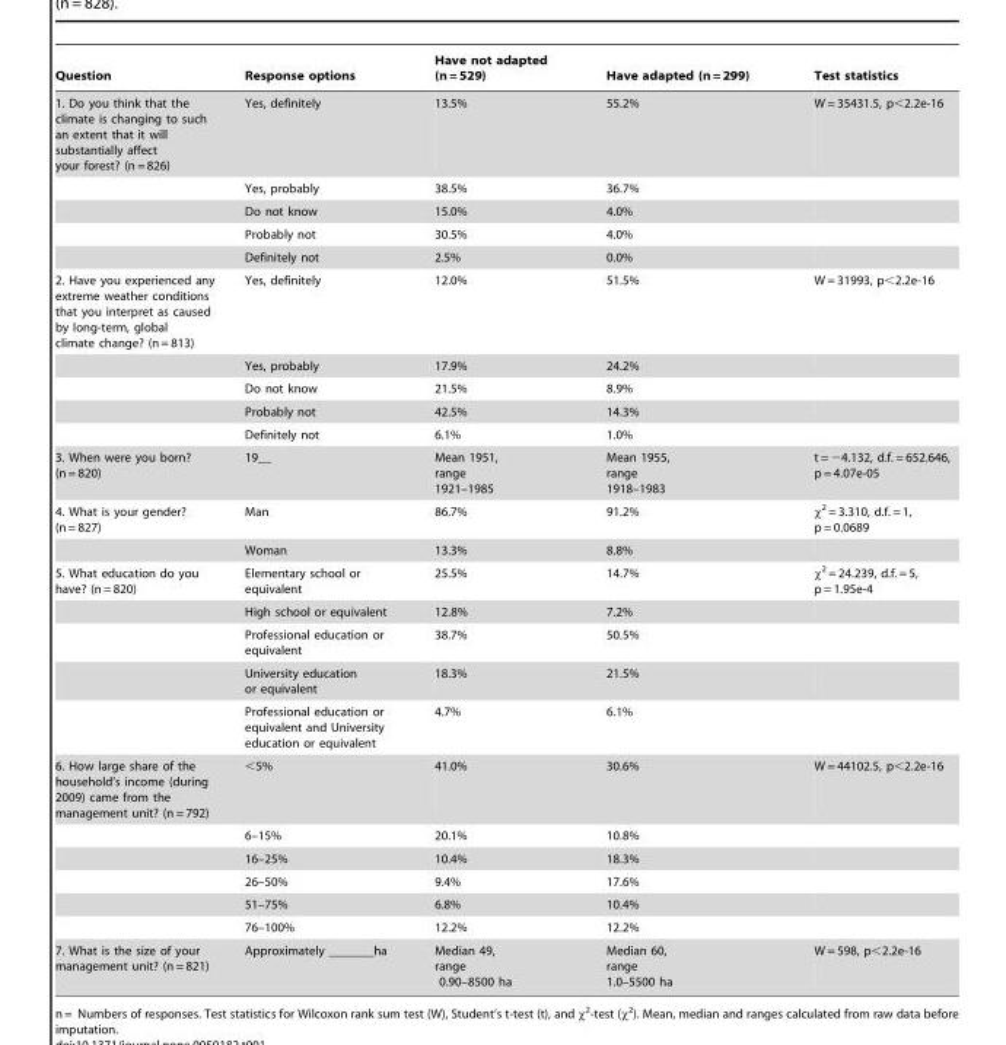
<table><thead><tr><td>Question</td><td>Response options</td><td>Have not adapted (n = 529)</td><td>Have adapted (n = 299)</td><td>Test statistics</td></tr></thead><tbody><tr><td rowspan="5">1. Do you think that the climate is changing to such an extent that it will substantially affect your forest? (n = 826)</td><td>Yes, definitely</td><td>13.5%</td><td>55.2%</td><td>W = 35431.5, p&lt;2.2e-16</td></tr><tr><td>Yes, probably</td><td>38.5%</td><td>36.7%</td><td></td></tr><tr><td>Do not know</td><td>15.0%</td><td>4.0%</td><td></td></tr><tr><td>Probably not</td><td>30.5%</td><td>4.0%</td><td></td></tr><tr><td>Definitely not</td><td>2.5%</td><td>0.0%</td><td></td></tr><tr><td rowspan="5">2. Have you experienced any extreme weather conditions that you interpret as caused by long-term, global climate change? (n = 813)</td><td>Yes, definitely</td><td>12.0%</td><td>51.5%</td><td>W = 31993, p&lt;2.2e-16</td></tr><tr><td>Yes, probably</td><td>17.9%</td><td>24.2%</td><td></td></tr><tr><td>Do not know</td><td>21.5%</td><td>8.9%</td><td></td></tr><tr><td>Probably not</td><td>42.5%</td><td>14.3%</td><td></td></tr><tr><td>Definitely not</td><td>6.1%</td><td>1.0%</td><td></td></tr><tr><td>3. When were you born? (n = 820)</td><td>19__</td><td>Mean 1951, range 1921–1985</td><td>Mean 1955, range 1918–1983</td><td>t = −4.132, d.f. = 652.646, p = 4.07e-05</td></tr><tr><td rowspan="2">4. What is your gender? (n = 827)</td><td>Man</td><td>86.7%</td><td>91.2%</td><td>χ<sup>2</sup> = 3.310, d.f. = 1, p = 0.0689</td></tr><tr><td>Woman</td><td>13.3%</td><td>8.8%</td><td></td></tr><tr><td rowspan="5">5. What education do you have? (n = 820)</td><td>Elementary school or equivalent</td><td>25.5%</td><td>14.7%</td><td>χ<sup>2</sup> = 24.239, d.f. = 5, p = 1.95e-4</td></tr><tr><td>High school or equivalent</td><td>12.8%</td><td>7.2%</td><td></td></tr><tr><td>Professional education or equivalent</td><td>38.7%</td><td>50.5%</td><td></td></tr><tr><td>University education or equivalent</td><td>18.3%</td><td>21.5%</td><td></td></tr><tr><td>Professional education or equivalent and University education or equivalent</td><td>4.7%</td><td>6.1%</td><td></td></tr><tr><td rowspan="6">6. How large share of the household’s income (during 2009) came from the management unit? (n = 792)</td><td>&lt;5%</td><td>41.0%</td><td>30.6%</td><td>W = 44102.5, p&lt;2.2e-16</td></tr><tr><td>6–15%</td><td>20.1%</td><td>10.8%</td><td></td></tr><tr><td>16–25%</td><td>10.4%</td><td>18.3%</td><td></td></tr><tr><td>26–50%</td><td>9.4%</td><td>17.6%</td><td></td></tr><tr><td>51–75%</td><td>6.8%</td><td>10.4%</td><td></td></tr><tr><td>76–100%</td><td>12.2%</td><td>12.2%</td><td></td></tr><tr><td>7. What is the size of your management unit? (n = 821)</td><td>Approximately _______ha</td><td>Median 49, range 0.90–8500 ha</td><td>Median 60, range 1.0–5500 ha</td><td>W = 598, p&lt;2.2e-16</td></tr></tbody></table>